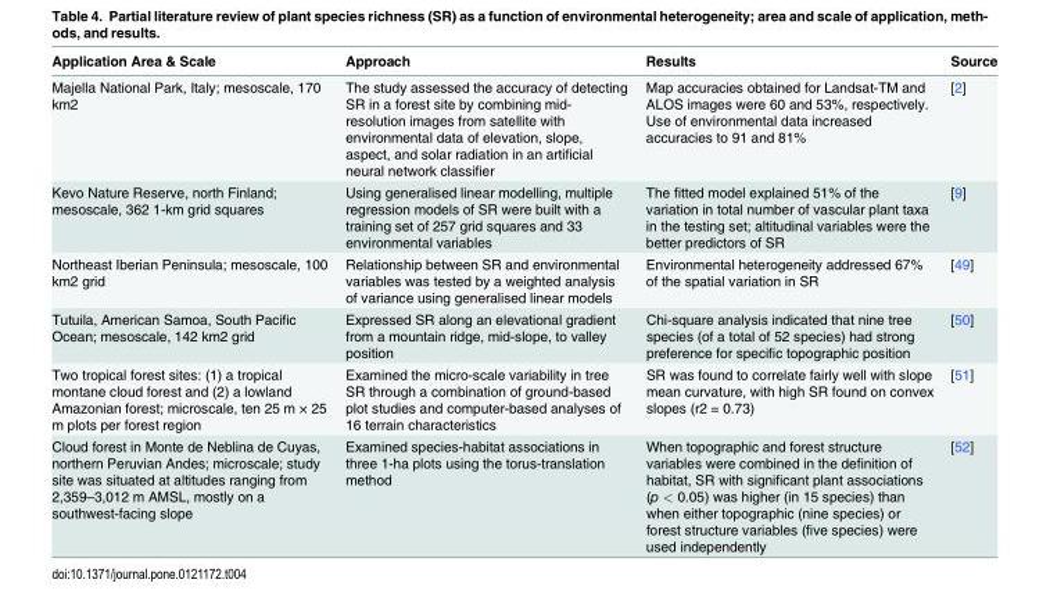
<table><thead><tr><td>Application Area &amp; Scale</td><td>Approach</td><td>Results</td><td>Source</td></tr></thead><tbody><tr><td>Majella National Park, Italy; mesoscale, 170 km2</td><td>The study assessed the accuracy of detecting SR in a forest site by combining mid- resolution images from satellite with environmental data of elevation, slope, aspect, and solar radiation in an artificial neural network classifier</td><td>Map accuracies obtained for Landsat-TM and ALOS images were 60 and 53%, respectively. Use of environmental data increased accuracies to 91 and 81%</td><td>[2]</td></tr><tr><td>Kevo Nature Reserve, north Finland; mesoscale, 362 1-km grid squares</td><td>Using generalised linear modelling, multiple regression models of SR were built with a training set of 257 grid squares and 33 environmental variables</td><td>The fitted model explained 51% of the variation in total number of vascular plant taxa in the testing set; altitudinal variables were the better predictors of SR</td><td>[9]</td></tr><tr><td>Northeast Iberian Peninsula; mesoscale, 100 km2 grid</td><td>Relationship between SR and environmental variables was tested by a weighted analysis of variance using generalised linear models</td><td>Environmental heterogeneity addressed 67% of the spatial variation in SR</td><td>[49]</td></tr><tr><td>Tutuila, American Samoa, South Pacific Ocean; mesoscale, 142 km2 grid</td><td>Expressed SR along an elevational gradient from a mountain ridge, mid-slope, to valley position</td><td>Chi-square analysis indicated that nine tree species (of a total of 52 species) had strong preference for specific topographic position</td><td>[50]</td></tr><tr><td>Two tropical forest sites: (1) a tropical montane cloud forest and (2) a lowland Amazonian forest; microscale, ten 25 m × 25 m plots per forest region</td><td>Examined the micro-scale variability in tree SR through a combination of ground-based plot studies and computer-based analyses of 16 terrain characteristics</td><td>SR was found to correlate fairly well with slope mean curvature, with high SR found on convex slopes (r2 = 0.73)</td><td>[51]</td></tr><tr><td>Cloud forest in Monte de Neblina de Cuyas, northern Peruvian Andes; microscale; study site was situated at altitudes ranging from 2,359–3,012 m AMSL, mostly on a southwest-facing slope</td><td>Examined species-habitat associations in three 1-ha plots using the torus-translation method</td><td>When topographic and forest structure variables were combined in the definition of habitat, SR with significant plant associations (p &lt; 0.05) was higher (in 15 species) than when either topographic (nine species) or forest structure variables (five species) were used independently</td><td>[52]</td></tr></tbody></table>